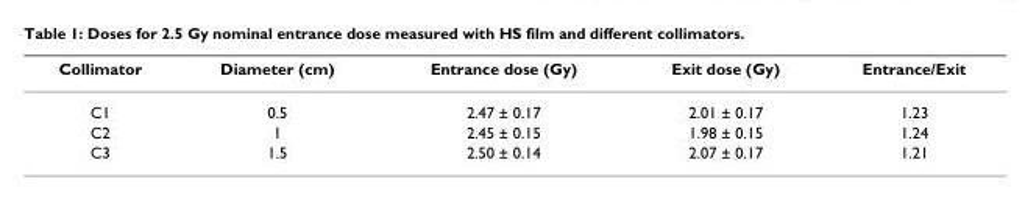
<table><thead><tr><td>Collimator</td><td>Diameter (cm)</td><td>Entrance dose (Gy)</td><td>Exit dose (Gy)</td><td>Entrance/Exit</td></tr></thead><tbody><tr><td>C1</td><td>0.5</td><td>2.47 ± 0.17</td><td>2.01 ± 0.17</td><td>1.23</td></tr><tr><td>C2</td><td>1</td><td>2.45 ± 0.15</td><td>1.98 ± 0.15</td><td>1.24</td></tr><tr><td>C3</td><td>1.5</td><td>2.50 ± 0.14</td><td>2.07 ± 0.17</td><td>1.21</td></tr></tbody></table>